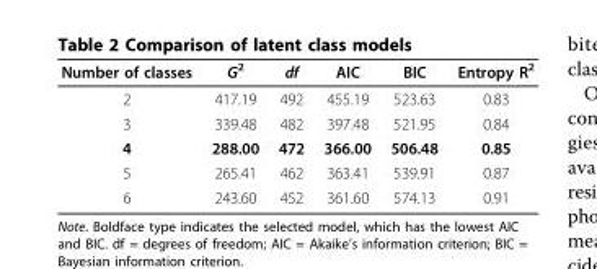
<table><thead><tr><td>Number of classes</td><td>G<sup>2</sup></td><td>df</td><td>AIC</td><td>BIC</td><td>Entropy R<sup>2</sup></td></tr></thead><tbody><tr><td>2</td><td>417.19</td><td>492</td><td>455.19</td><td>523.63</td><td>0.83</td></tr><tr><td>3</td><td>339.48</td><td>482</td><td>397.48</td><td>521.95</td><td>0.84</td></tr><tr><td>4</td><td>288.00</td><td>472</td><td>366.00</td><td>506.48</td><td>0.85</td></tr><tr><td>5</td><td>265.41</td><td>462</td><td>363.41</td><td>539.91</td><td>0.87</td></tr><tr><td>6</td><td>243.60</td><td>452</td><td>361.60</td><td>574.13</td><td>0.91</td></tr></tbody></table>